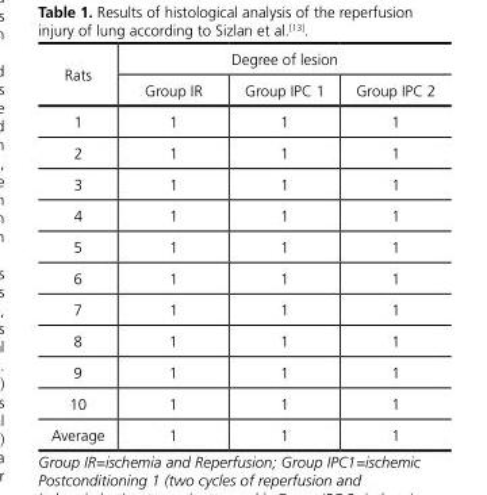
<table><thead><tr><td rowspan="2">Rats</td><td colspan="3">Degree of lesion</td></tr><tr><td>Group IR</td><td>Group IPC 1</td><td>Group IPC 2</td></tr></thead><tbody><tr><td>1</td><td>1</td><td>1</td><td>1</td></tr><tr><td>2</td><td>1</td><td>1</td><td>1</td></tr><tr><td>3</td><td>1</td><td>1</td><td>1</td></tr><tr><td>4</td><td>1</td><td>1</td><td>1</td></tr><tr><td>5</td><td>1</td><td>1</td><td>1</td></tr><tr><td>6</td><td>1</td><td>1</td><td>1</td></tr><tr><td>7</td><td>1</td><td>1</td><td>1</td></tr><tr><td>8</td><td>1</td><td>1</td><td>1</td></tr><tr><td>9</td><td>1</td><td>1</td><td>1</td></tr><tr><td>10</td><td>1</td><td>1</td><td>1</td></tr><tr><td>Average</td><td>1</td><td>1</td><td>1</td></tr></tbody></table>